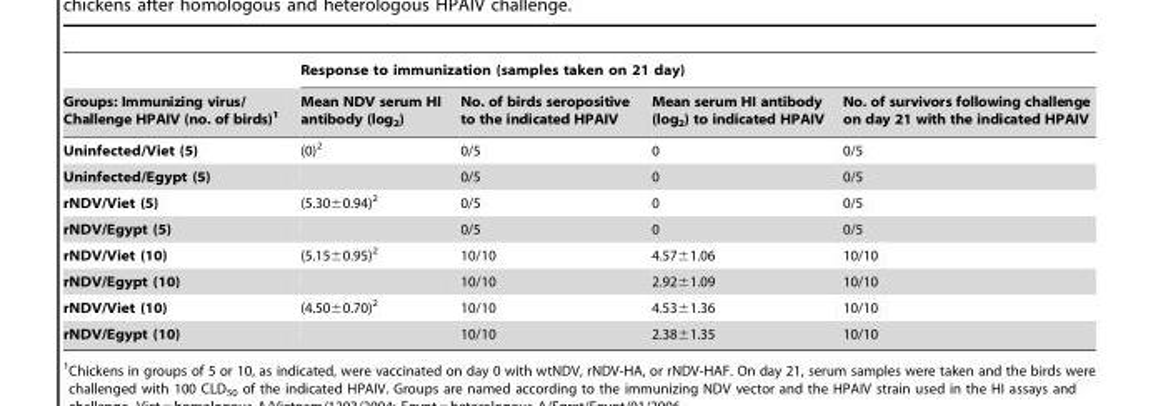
<table><thead><tr><td rowspan="2">Groups: Immunizing virus/ Challenge HPAIV (no. of birds)<sup>1</sup></td><td colspan="4">Response to immunization (samples taken on 21 day)</td></tr><tr><td>Mean NDV serum HI antibody (log<sub>2</sub>)</td><td>No. of birds seropositive to the indicated HPAIV</td><td>Mean serum HI antibody (log<sub>2</sub>) to indicated HPAIV</td><td>No. of survivors following challenge on day 21 with the indicated HPAIV</td></tr></thead><tbody><tr><td>Uninfected/Viet (5)</td><td>(0)<sup>2</sup></td><td>0/5</td><td>0</td><td>0/5</td></tr><tr><td>Uninfected/Egypt (5)</td><td></td><td>0/5</td><td>0</td><td>0/5</td></tr><tr><td>rNDV/Viet (5)</td><td>(5.30±0.94)<sup>2</sup></td><td>0/5</td><td>0</td><td>0/5</td></tr><tr><td>rNDV/Egypt (5)</td><td></td><td>0/5</td><td>0</td><td>0/5</td></tr><tr><td>rNDV/Viet (10)</td><td>(5.15±0.95)<sup>2</sup></td><td>10/10</td><td>4.57±1.06</td><td>10/10</td></tr><tr><td>rNDV/Egypt (10)</td><td></td><td>10/10</td><td>2.92±1.09</td><td>10/10</td></tr><tr><td>rNDV/Viet (10)</td><td>(4.50±0.70)<sup>2</sup></td><td>10/10</td><td>4.53±1.36</td><td>10/10</td></tr><tr><td>rNDV/Egypt (10)</td><td></td><td>10/10</td><td>2.38±1.35</td><td>10/10</td></tr></tbody></table>